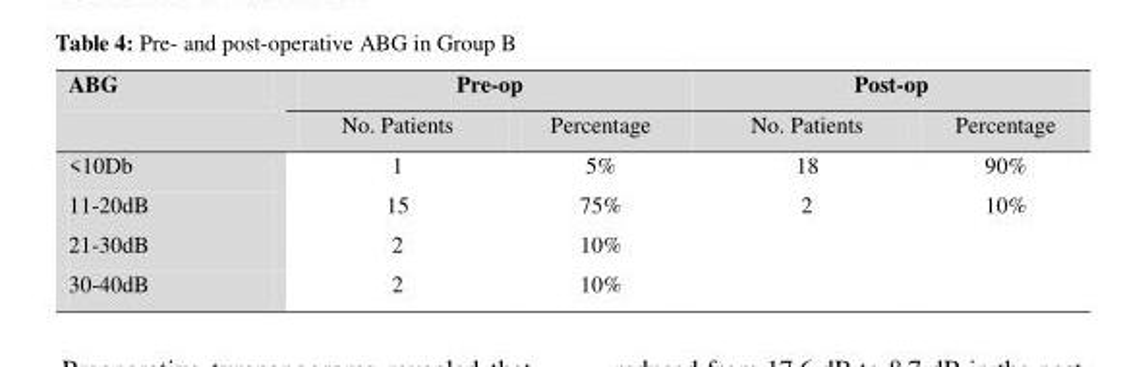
<table><thead><tr><td rowspan="2">ABG</td><td colspan="2">Pre-op</td><td colspan="2">Post-op</td></tr><tr><td>No. Patients</td><td>Percentage</td><td>No. Patients</td><td>Percentage</td></tr></thead><tbody><tr><td>&lt;10Db</td><td>1</td><td>5%</td><td>18</td><td>90%</td></tr><tr><td>11-20dB</td><td>15</td><td>75%</td><td>2</td><td>10%</td></tr><tr><td>21-30dB</td><td>2</td><td>10%</td><td></td><td></td></tr><tr><td>30-40dB</td><td>2</td><td>10%</td><td></td><td></td></tr></tbody></table>